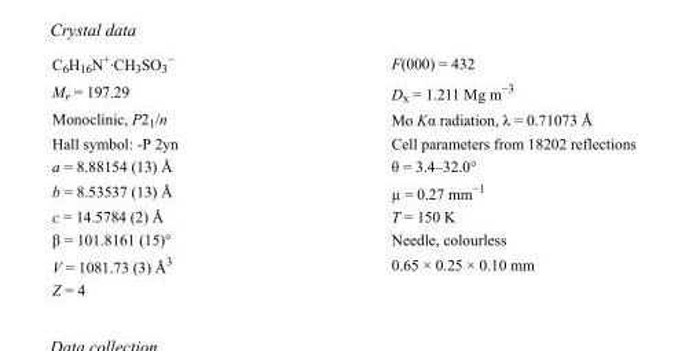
<table><tbody><tr><td>C<sub>6</sub>H<sub>16</sub>N<sup>+</sup>·CH<sub>3</sub>SO<sub>3</sub> <sup>−</sup></td><td>F(000) = 432</td></tr><tr><td>M<sub>r</sub> = 197.29</td><td>D<sub>x</sub> = 1.211 Mg m<sup>−3</sup></td></tr><tr><td>Monoclinic, P2<sub>1</sub>/n</td><td>Mo Kα radiation, λ = 0.71073 Å</td></tr><tr><td>Hall symbol: -P 2yn</td><td>Cell parameters from 18202 reflections</td></tr><tr><td>a = 8.88154 (13) Å</td><td>θ = 3.4–32.0°</td></tr><tr><td>b = 8.53537 (13) Å</td><td>µ = 0.27 mm<sup>−1</sup></td></tr><tr><td>c = 14.5784 (2) Å</td><td>T = 150 K</td></tr><tr><td>β = 101.8161 (15)°</td><td>Needle, colourless</td></tr><tr><td>V = 1081.73 (3) Å<sup>3</sup></td><td>0.65 × 0.25 × 0.10 mm</td></tr><tr><td>Z = 4</td><td></td></tr></tbody></table>